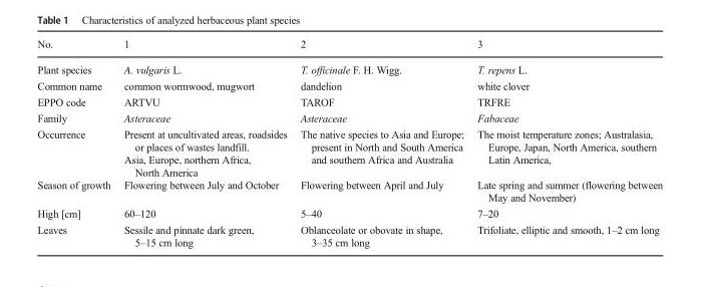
<table><thead><tr><td>No.</td><td>1</td><td>2</td><td>3</td></tr></thead><tbody><tr><td>Plant species</td><td>A. vulgaris L.</td><td>T. officinale F. H. Wigg.</td><td>T. repens L.</td></tr><tr><td>Common name</td><td>common wormwood, mugwort</td><td>dandelion</td><td>white clover</td></tr><tr><td>EPPO code</td><td>ARTVU</td><td>TAROF</td><td>TRFRE</td></tr><tr><td>Family</td><td>Asteraceae</td><td>Asteraceae</td><td>Fabaceae</td></tr><tr><td>Occurrence</td><td>Present at uncultivated areas, roadsides or places of wastes landfill. Asia, Europe, northern Africa, North America</td><td>The native species to Asia and Europe; present in North and South America and southern Africa and Australia</td><td>The moist temperature zones; Australasia, Europe, Japan, North America, southern Latin America,</td></tr><tr><td>Season of growth</td><td>Flowering between July and October</td><td>Flowering between April and July</td><td>Late spring and summer (flowering between May and November)</td></tr><tr><td>High [cm]</td><td>60–120</td><td>5–40</td><td>7–20</td></tr><tr><td>Leaves</td><td>Sessile and pinnate dark green, 5–15 cm long</td><td>Oblanceolate or obovate in shape, 3–35 cm long</td><td>Trifoliate, elliptic and smooth, 1–2 cm long</td></tr></tbody></table>